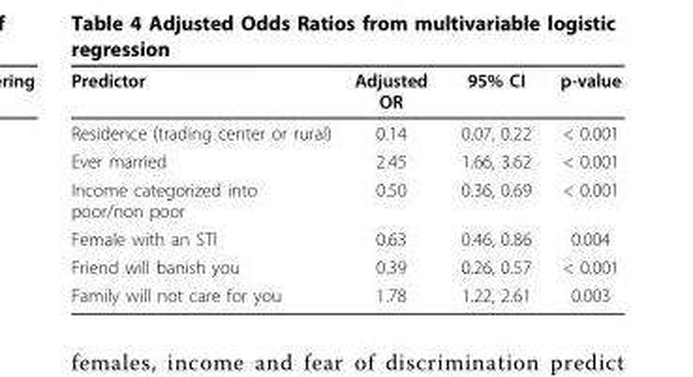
<table><thead><tr><td>Predictor</td><td>Adjusted OR</td><td>95% CI</td><td>p-value</td></tr></thead><tbody><tr><td>Residence (trading center or rural)</td><td>0.14</td><td>0.07, 0.22</td><td>&lt; 0.001</td></tr><tr><td>Ever married</td><td>2.45</td><td>1.66, 3.62</td><td>&lt; 0.001</td></tr><tr><td>Income categorized into poor/non poor</td><td>0.50</td><td>0.36, 0.69</td><td>&lt; 0.001</td></tr><tr><td>Female with an STI</td><td>0.63</td><td>0.46, 0.86</td><td>0.004</td></tr><tr><td>Friend will banish you</td><td>0.39</td><td>0.26, 0.57</td><td>&lt; 0.001</td></tr><tr><td>Family will not care for you</td><td>1.78</td><td>1.22, 2.61</td><td>0.003</td></tr></tbody></table>